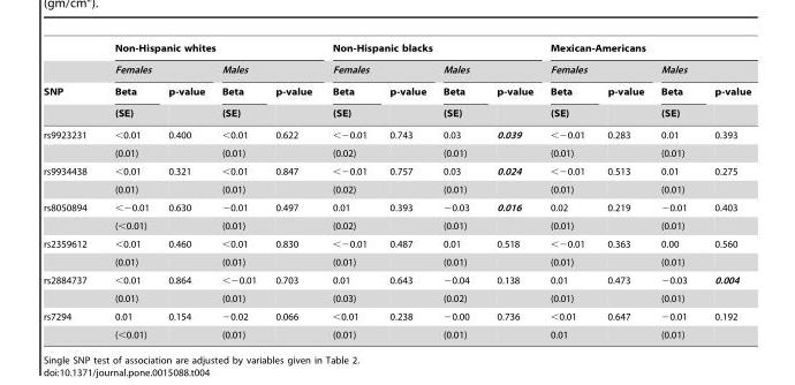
<table><thead><tr><td rowspan="4">SNP</td><td colspan="4">Non-Hispanic whites</td><td colspan="4">Non-Hispanic blacks</td><td colspan="4">Mexican-Americans</td></tr><tr><td colspan="2">Females</td><td colspan="2">Males</td><td colspan="2">Females</td><td colspan="2">Males</td><td colspan="2">Females</td><td colspan="2">Males</td></tr><tr><td rowspan="2">Beta (SE)</td><td rowspan="2">p-value</td><td rowspan="2">Beta (SE)</td><td rowspan="2">p-value</td><td rowspan="2">Beta (SE)</td><td rowspan="2">p-value</td><td rowspan="2">Beta (SE)</td><td rowspan="2">p-value</td><td rowspan="2">Beta (SE)</td><td rowspan="2">p-value</td><td rowspan="2">Beta (SE)</td><td rowspan="2">p-value</td></tr><tr></tr></thead><tbody><tr><td rowspan="2">rs9923231</td><td>&lt;0.01</td><td>0.400</td><td>&lt;0.01</td><td>0.622</td><td>&lt;−0.01</td><td>0.743</td><td>0.03</td><td>0.039</td><td>&lt;−0.01</td><td>0.283</td><td>0.01</td><td>0.393</td></tr><tr><td>(0.01)</td><td></td><td>(0.01)</td><td></td><td>(0.02)</td><td></td><td>(0.01)</td><td></td><td>(0.01)</td><td></td><td>(0.01)</td><td></td></tr><tr><td rowspan="2">rs9934438</td><td>&lt;0.01</td><td>0.321</td><td>&lt;0.01</td><td>0.847</td><td>&lt;−0.01</td><td>0.757</td><td>0.03</td><td>0.024</td><td>&lt;−0.01</td><td>0.513</td><td>0.01</td><td>0.275</td></tr><tr><td>(0.01)</td><td></td><td>(0.01)</td><td></td><td>(0.02)</td><td></td><td>(0.01)</td><td></td><td>(0.01)</td><td></td><td>(0.01)</td><td></td></tr><tr><td rowspan="2">rs8050894</td><td>&lt;−0.01</td><td>0.630</td><td>−0.01</td><td>0.497</td><td>0.01</td><td>0.393</td><td>−0.03</td><td>0.016</td><td>0.02</td><td>0.219</td><td>−0.01</td><td>0.403</td></tr><tr><td>(&lt;0.01)</td><td></td><td>(0.01)</td><td></td><td>(0.02)</td><td></td><td>(0.01)</td><td></td><td>(0.01)</td><td></td><td>(0.01)</td><td></td></tr><tr><td rowspan="2">rs2359612</td><td>&lt;0.01</td><td>0.460</td><td>&lt;0.01</td><td>0.830</td><td>&lt;−0.01</td><td>0.487</td><td>0.01</td><td>0.518</td><td>&lt;−0.01</td><td>0.363</td><td>0.00</td><td>0.560</td></tr><tr><td>(0.01)</td><td></td><td>(0.01)</td><td></td><td>(0.01)</td><td></td><td>(0.01)</td><td></td><td>(0.01)</td><td></td><td>(0.01)</td><td></td></tr><tr><td rowspan="2">rs2884737</td><td>&lt;0.01</td><td>0.864</td><td>&lt;−0.01</td><td>0.703</td><td>0.01</td><td>0.643</td><td>−0.04</td><td>0.138</td><td>0.01</td><td>0.473</td><td>−0.03</td><td>0.004</td></tr><tr><td>(0.01)</td><td></td><td>(0.01)</td><td></td><td>(0.03)</td><td></td><td>(0.02)</td><td></td><td>(0.01)</td><td></td><td>(0.01)</td><td></td></tr><tr><td rowspan="2">rs7294</td><td>0.01</td><td>0.154</td><td>−0.02</td><td>0.066</td><td>&lt;0.01</td><td>0.238</td><td>−0.00</td><td>0.736</td><td>&lt;0.01</td><td>0.647</td><td>−0.01</td><td>0.192</td></tr><tr><td>(&lt;0.01)</td><td></td><td>(0.01)</td><td></td><td>(0.01)</td><td></td><td>(0.01)</td><td></td><td>0.01</td><td></td><td>(0.01)</td><td></td></tr></tbody></table>